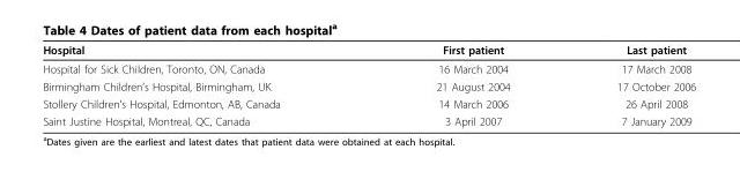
<table><thead><tr><td>Hospital</td><td>First patient</td><td>Last patient</td></tr></thead><tbody><tr><td>Hospital for Sick Children, Toronto, ON, Canada</td><td>16 March 2004</td><td>17 March 2008</td></tr><tr><td>Birmingham Children’s Hospital, Birmingham, UK</td><td>21 August 2004</td><td>17 October 2006</td></tr><tr><td>Stollery Children’s Hospital, Edmonton, AB, Canada</td><td>14 March 2006</td><td>26 April 2008</td></tr><tr><td>Saint Justine Hospital, Montreal, QC, Canada</td><td>3 April 2007</td><td>7 January 2009</td></tr></tbody></table>